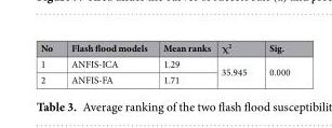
<table><thead><tr><td>No</td><td>Flash flood models</td><td>Mean ranks</td><td>χ<sup>2</sup></td><td>Sig.</td></tr></thead><tbody><tr><td>1</td><td>ANFIS-ICA</td><td>1.29</td><td rowspan="2">35.945</td><td rowspan="2">0.000</td></tr><tr><td>2</td><td>ANFIS-FA</td><td>1.71</td></tr></tbody></table>